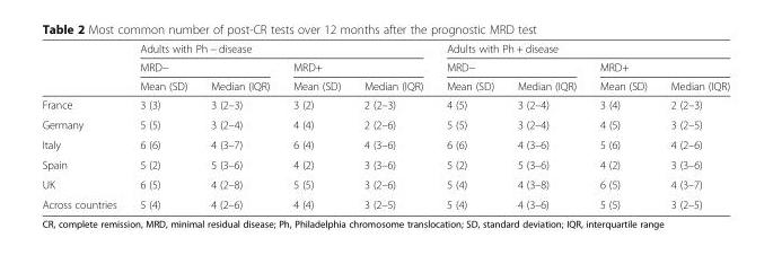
<table><thead><tr><td rowspan="3"></td><td colspan="4">Adults with Ph − disease</td><td colspan="4">Adults with Ph + disease</td></tr><tr><td colspan="2">MRD−</td><td colspan="2">MRD+</td><td colspan="2">MRD−</td><td colspan="2">MRD+</td></tr><tr><td>Mean (SD)</td><td>Median (IQR)</td><td>Mean (SD)</td><td>Median (IQR)</td><td>Mean (SD)</td><td>Median (IQR)</td><td>Mean (SD)</td><td>Median (IQR)</td></tr></thead><tbody><tr><td>France</td><td>3 (3)</td><td>3 (2–3)</td><td>3 (2)</td><td>2 (2–3)</td><td>4 (5)</td><td>3 (2–4)</td><td>3 (4)</td><td>2 (2–3)</td></tr><tr><td>Germany</td><td>5 (5)</td><td>3 (2–4)</td><td>4 (4)</td><td>2 (2–6)</td><td>5 (5)</td><td>3 (2–4)</td><td>4 (5)</td><td>3 (2–5)</td></tr><tr><td>Italy</td><td>6 (6)</td><td>4 (3–7)</td><td>6 (4)</td><td>4 (3–6)</td><td>6 (6)</td><td>4 (3–6)</td><td>5 (6)</td><td>4 (2–6)</td></tr><tr><td>Spain</td><td>5 (2)</td><td>5 (3–6)</td><td>4 (2)</td><td>3 (3–6)</td><td>5 (2)</td><td>5 (3–6)</td><td>4 (2)</td><td>3 (3–6)</td></tr><tr><td>UK</td><td>6 (5)</td><td>4 (2–8)</td><td>5 (5)</td><td>3 (2–6)</td><td>5 (4)</td><td>4 (3–8)</td><td>6 (5)</td><td>4 (3–7)</td></tr><tr><td>Across countries</td><td>5 (4)</td><td>4 (2–6)</td><td>4 (4)</td><td>3 (2–5)</td><td>5 (4)</td><td>4 (3–6)</td><td>5 (5)</td><td>3 (2–5)</td></tr></tbody></table>